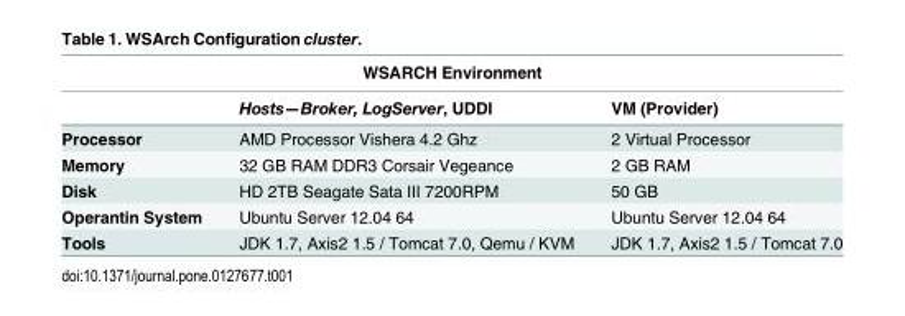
<table><thead><tr><td colspan="3">WSARCH Environment</td></tr><tr><td></td><td>Hosts—Broker, LogServer, UDDI</td><td>VM (Provider)</td></tr></thead><tbody><tr><td>Processor</td><td>AMD Processor Vishera 4.2 Ghz</td><td>2 Virtual Processor</td></tr><tr><td>Memory</td><td>32 GB RAM DDR3 Corsair Vegeance</td><td>2 GB RAM</td></tr><tr><td>Disk</td><td>HD 2TB Seagate Sata III 7200RPM</td><td>50 GB</td></tr><tr><td>Operantin System</td><td>Ubuntu Server 12.04 64</td><td>Ubuntu Server 12.04 64</td></tr><tr><td>Tools</td><td>JDK 1.7, Axis2 1.5 / Tomcat 7.0, Qemu / KVM</td><td>JDK 1.7, Axis2 1.5 / Tomcat 7.0</td></tr></tbody></table>